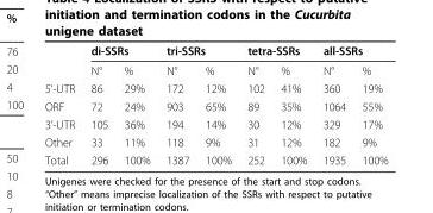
<table><thead><tr><td rowspan="2"></td><td colspan="2">di-SSRs</td><td colspan="2">tri-SSRs</td><td colspan="2">tetra-SSRs</td><td colspan="2">all-SSRs</td></tr><tr><td>N°</td><td>%</td><td>N°</td><td>%</td><td>N°</td><td>%</td><td>N°</td><td>%</td></tr></thead><tbody><tr><td>5’-UTR</td><td>86</td><td>29%</td><td>172</td><td>12%</td><td>102</td><td>41%</td><td>360</td><td>19%</td></tr><tr><td>ORF</td><td>72</td><td>24%</td><td>903</td><td>65%</td><td>89</td><td>35%</td><td>1064</td><td>55%</td></tr><tr><td>3’-UTR</td><td>105</td><td>36%</td><td>194</td><td>14%</td><td>30</td><td>12%</td><td>329</td><td>17%</td></tr><tr><td>Other</td><td>33</td><td>11%</td><td>118</td><td>9%</td><td>31</td><td>12%</td><td>182</td><td>9%</td></tr><tr><td>Total</td><td>296</td><td>100%</td><td>1387</td><td>100%</td><td>252</td><td>100%</td><td>1935</td><td>100%</td></tr></tbody></table>